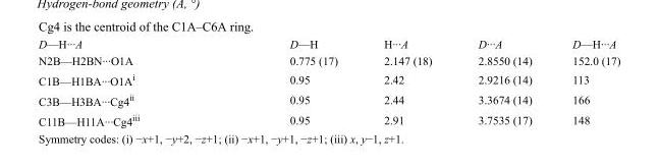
<table><tbody><tr><td>D—H···A</td><td>D—H</td><td>H···A</td><td>D···A</td><td>D—H···A</td></tr><tr><td>N2B—H2BN···O1A</td><td>0.775 (17)</td><td>2.147 (18)</td><td>2.8550 (14)</td><td>152.0 (17)</td></tr><tr><td>C1B—H1BA···O1A<sup>i</sup></td><td>0.95</td><td>2.42</td><td>2.9216 (14)</td><td>113</td></tr><tr><td>C3B—H3BA···Cg4<sup>ii</sup></td><td>0.95</td><td>2.44</td><td>3.3674 (14)</td><td>166</td></tr><tr><td>C11B—H11A···Cg4<sup>iii</sup></td><td>0.95</td><td>2.91</td><td>3.7535 (17)</td><td>148</td></tr></tbody></table>